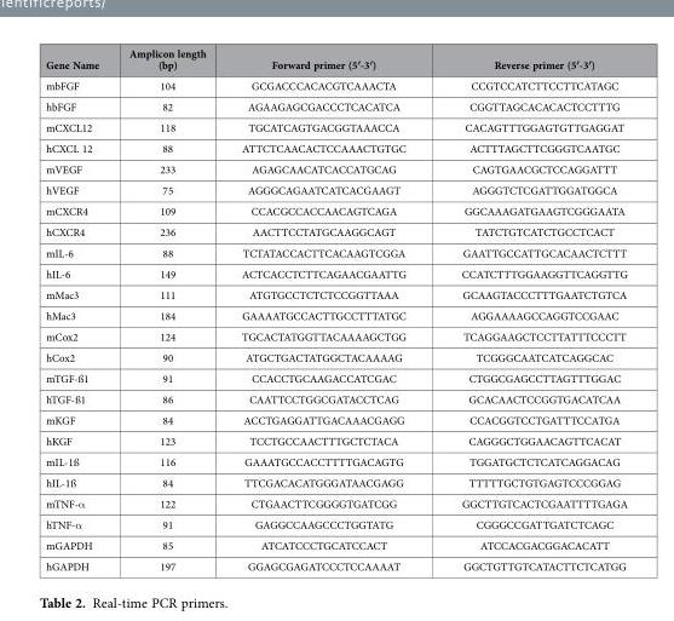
<table><thead><tr><td>Gene Name</td><td>Amplicon length (bp)</td><td>Forward primer (5′-3′)</td><td>Reverse primer (5′-3′)</td></tr></thead><tbody><tr><td>mbFGF</td><td>104</td><td>GCGACCCACACGTCAAACTA</td><td>CCGTCCATCTTCCTTCATAGC</td></tr><tr><td>hbFGF</td><td>82</td><td>AGAAGAGCGACCCTCACATCA</td><td>CGGTTAGCACACACTCCTTTG</td></tr><tr><td>mCXCL12</td><td>118</td><td>TGCATCAGTGACGGTAAACCA</td><td>CACAGTTTGGAGTGTTGAGGAT</td></tr><tr><td>hCXCL 12</td><td>88</td><td>ATTCTCAACACTCCAAACTGTGC</td><td>ACTTTAGCTTCGGGTCAATGC</td></tr><tr><td>mVEGF</td><td>233</td><td>AGAGCAACATCACCATGCAG</td><td>CAGTGAACGCTCCAGGATTT</td></tr><tr><td>hVEGF</td><td>75</td><td>AGGGCAGAATCATCACGAAGT</td><td>AGGGTCTCGATTGGATGGCA</td></tr><tr><td>mCXCR4</td><td>109</td><td>CCACGCCACCAACAGTCAGA</td><td>GGCAAAGATGAAGTCGGGAATA</td></tr><tr><td>hCXCR4</td><td>236</td><td>AACTTCCTATGCAAGGCAGT</td><td>TATCTGTCATCTGCCTCACT</td></tr><tr><td>mIL-6</td><td>88</td><td>TCTATACCACTTCACAAGTCGGA</td><td>GAATTGCCATTGCACAACTCTTT</td></tr><tr><td>hIL-6</td><td>149</td><td>ACTCACCTCTTCAGAACGAATTG</td><td>CCATCTTTGGAAGGTTCAGGTTG</td></tr><tr><td>mMac3</td><td>111</td><td>ATGTGCCTCTCTCCGGTTAAA</td><td>GCAAGTACCCTTTGAATCTGTCA</td></tr><tr><td>hMac3</td><td>184</td><td>GAAAATGCCACTTGCCTTTATGC</td><td>AGGAAAAGCCAGGTCCGAAC</td></tr><tr><td>mCox2</td><td>124</td><td>TGCACTATGGTTACAAAAGCTGG</td><td>TCAGGAAGCTCCTTATTTCCCTT</td></tr><tr><td>hCox2</td><td>90</td><td>ATGCTGACTATGGCTACAAAAG</td><td>TCGGGCAATCATCAGGCAC</td></tr><tr><td>mTGF-ß1</td><td>91</td><td>CCACCTGCAAGACCATCGAC</td><td>CTGGCGAGCCTTAGTTTGGAC</td></tr><tr><td>hTGF-ß1</td><td>86</td><td>CAATTCCTGGCGATACCTCAG</td><td>GCACAACTCCGGTGACATCAA</td></tr><tr><td>mKGF</td><td>84</td><td>ACCTGAGGATTGACAAACGAGG</td><td>CCACGGTCCTGATTTCCATGA</td></tr><tr><td>hKGF</td><td>123</td><td>TCCTGCCAACTTTGCTCTACA</td><td>CAGGGCTGGAACAGTTCACAT</td></tr><tr><td>mIL-1ß</td><td>116</td><td>GAAATGCCACCTTTTGACAGTG</td><td>TGGATGCTCTCATCAGGACAG</td></tr><tr><td>hIL-1ß</td><td>84</td><td>TTCGACACATGGGATAACGAGG</td><td>TTTTTGCTGTGAGTCCCGGAG</td></tr><tr><td>mTNF-α</td><td>122</td><td>CTGAACTTCGGGGTGATCGG</td><td>GGCTTGTCACTCGAATTTTGAGA</td></tr><tr><td>hTNF-α</td><td>91</td><td>GAGGCCAAGCCCTGGTATG</td><td>CGGGCCGATTGATCTCAGC</td></tr><tr><td>mGAPDH</td><td>85</td><td>ATCATCCCTGCATCCACT</td><td>ATCCACGACGGACACATT</td></tr><tr><td>hGAPDH</td><td>197</td><td>GGAGCGAGATCCCTCCAAAAT</td><td>GGCTGTTGTCATACTTCTCATGG</td></tr></tbody></table>